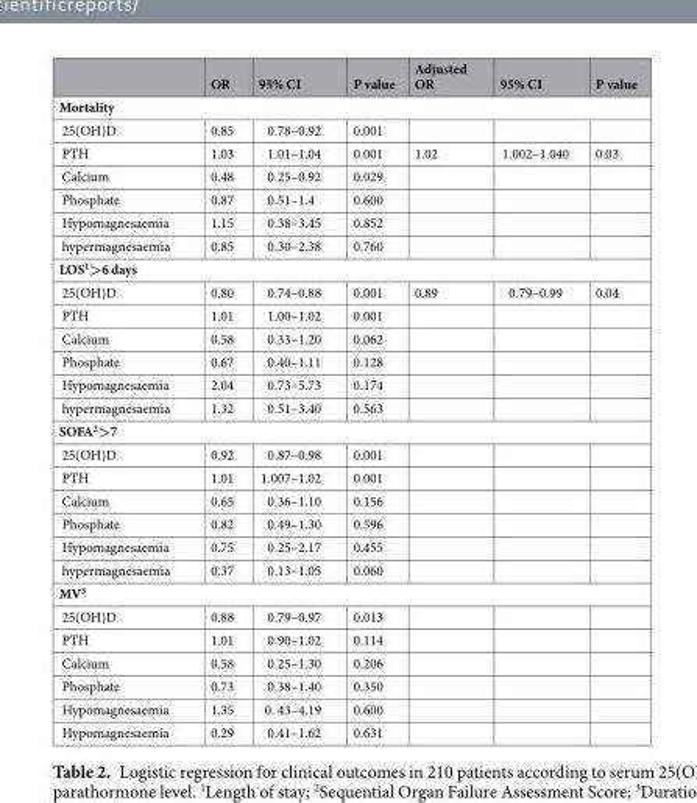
<table><thead><tr><td></td><td>OR</td><td>95% CI</td><td>P value</td><td>Adjusted OR</td><td>95% CI</td><td>P value</td></tr></thead><tbody><tr><td colspan="7">Mortality</td></tr><tr><td>25(OH)D</td><td>0.85</td><td>0.78–0.92</td><td>0.001</td><td></td><td></td><td></td></tr><tr><td>PTH</td><td>1.03</td><td>1.01–1.04</td><td>0.001</td><td>1.02</td><td>1.002–1.040</td><td>0.03</td></tr><tr><td>Calcium</td><td>0.48</td><td>0.25–0.92</td><td>0.029</td><td></td><td></td><td></td></tr><tr><td>Phosphate</td><td>0.87</td><td>0.51–1.4</td><td>0.600</td><td></td><td></td><td></td></tr><tr><td>Hypomagnesaemia</td><td>1.15</td><td>0.38–3.45</td><td>0.852</td><td></td><td></td><td></td></tr><tr><td>hypermagnesaemia</td><td>0.85</td><td>0.30–2.38</td><td>0.760</td><td></td><td></td><td></td></tr><tr><td colspan="7">LOS<sup>1</sup>&gt;6 days</td></tr><tr><td>25(OH)D</td><td>0.80</td><td>0.74–0.88</td><td>0.001</td><td>0.89</td><td>0.79–0.99</td><td>0.04</td></tr><tr><td>PTH</td><td>1.01</td><td>1.00–1.02</td><td>0.001</td><td></td><td></td><td></td></tr><tr><td>Calcium</td><td>0.58</td><td>0.33–1.20</td><td>0.062</td><td></td><td></td><td></td></tr><tr><td>Phosphate</td><td>0.67</td><td>0.40–1.11</td><td>0.128</td><td></td><td></td><td></td></tr><tr><td>Hypomagnesaemia</td><td>2.04</td><td>0.73–5.73</td><td>0.174</td><td></td><td></td><td></td></tr><tr><td>hypermagnesaemia</td><td>1.32</td><td>0.51–3.40</td><td>0.563</td><td></td><td></td><td></td></tr><tr><td colspan="7">SOFA<sup>2</sup>&gt;7</td></tr><tr><td>25(OH)D</td><td>0.92</td><td>0.87–0.98</td><td>0.001</td><td></td><td></td><td></td></tr><tr><td>PTH</td><td>1.01</td><td>1.007–1.02</td><td>0.001</td><td></td><td></td><td></td></tr><tr><td>Calcium</td><td>0.65</td><td>0.36–1.10</td><td>0.156</td><td></td><td></td><td></td></tr><tr><td>Phosphate</td><td>0.82</td><td>0.49–1.30</td><td>0.596</td><td></td><td></td><td></td></tr><tr><td>Hypomagnesaemia</td><td>0.75</td><td>0.25–2.17</td><td>0.455</td><td></td><td></td><td></td></tr><tr><td>hypermagnesaemia</td><td>0.37</td><td>0.13–1.05</td><td>0.060</td><td></td><td></td><td></td></tr><tr><td colspan="7">MV<sup>3</sup></td></tr><tr><td>25(OH)D</td><td>0.88</td><td>0.79–0.97</td><td>0.013</td><td></td><td></td><td></td></tr><tr><td>PTH</td><td>1.01</td><td>0.90–1.02</td><td>0.114</td><td></td><td></td><td></td></tr><tr><td>Calcium</td><td>0.58</td><td>0.25–1.30</td><td>0.206</td><td></td><td></td><td></td></tr><tr><td>Phosphate</td><td>0.73</td><td>0.38–1.40</td><td>0.350</td><td></td><td></td><td></td></tr><tr><td>Hypomagnesaemia</td><td>1.35</td><td>0. 43–4.19</td><td>0.600</td><td></td><td></td><td></td></tr><tr><td>Hypomagnesaemia</td><td>0.29</td><td>0.41–1.62</td><td>0.631</td><td></td><td></td><td></td></tr></tbody></table>